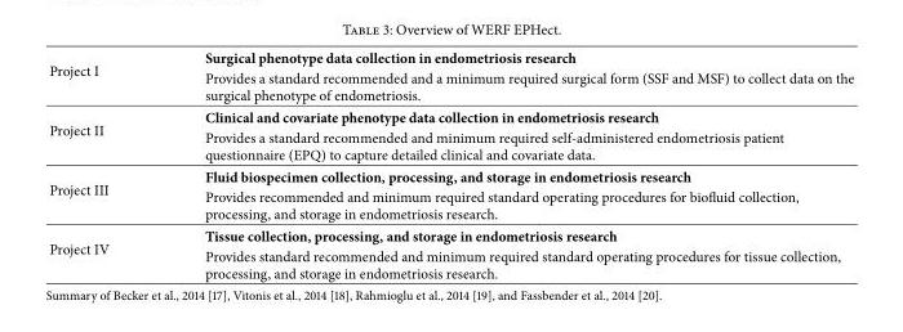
<table><tbody><tr><td rowspan="2">Project I</td><td>Surgical phenotype data collection in endometriosis research</td></tr><tr><td>Provides a standard recommended and a minimum required surgical form (SSF and MSF) to collect data on the surgical phenotype of endometriosis.</td></tr><tr><td rowspan="2">Project II</td><td>Clinical and covariate phenotype data collection in endometriosis research</td></tr><tr><td>Provides a standard recommended and minimum required self-administered endometriosis patient questionnaire (EPQ) to capture detailed clinical and covariate data.</td></tr><tr><td rowspan="2">Project III</td><td>Fluid biospecimen collection, processing, and storage in endometriosis research</td></tr><tr><td>Provides recommended and minimum required standard operating procedures for biofluid collection, processing, and storage in endometriosis research.</td></tr><tr><td rowspan="2">Project IV</td><td>Tissue collection, processing, and storage in endometriosis research</td></tr><tr><td>Provides standard recommended and minimum required standard operating procedures for tissue collection, processing, and storage in endometriosis research.</td></tr></tbody></table>